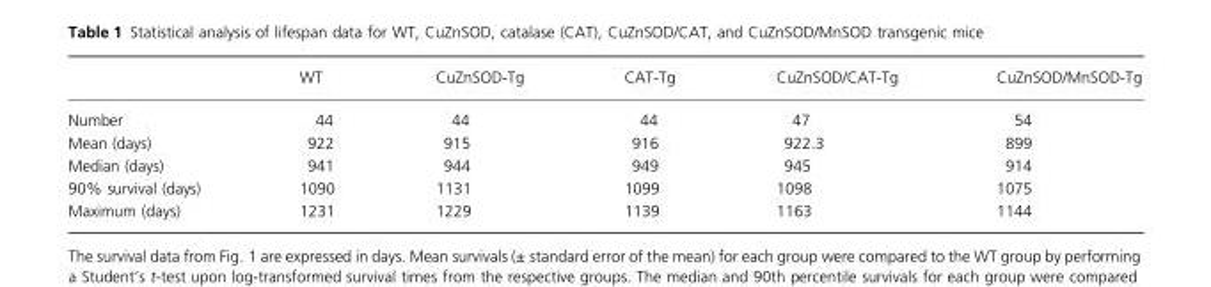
<table><thead><tr><td></td><td>WT</td><td>CuZnSOD-Tg</td><td>CAT-Tg</td><td>CuZnSOD/CAT-Tg</td><td>CuZnSOD/MnSOD-Tg</td></tr></thead><tbody><tr><td>Number</td><td>44</td><td>44</td><td>44</td><td>47</td><td>54</td></tr><tr><td>Mean (days)</td><td>922</td><td>915</td><td>916</td><td>922.3</td><td>899</td></tr><tr><td>Median (days)</td><td>941</td><td>944</td><td>949</td><td>945</td><td>914</td></tr><tr><td>90% survival (days)</td><td>1090</td><td>1131</td><td>1099</td><td>1098</td><td>1075</td></tr><tr><td>Maximum (days)</td><td>1231</td><td>1229</td><td>1139</td><td>1163</td><td>1144</td></tr></tbody></table>